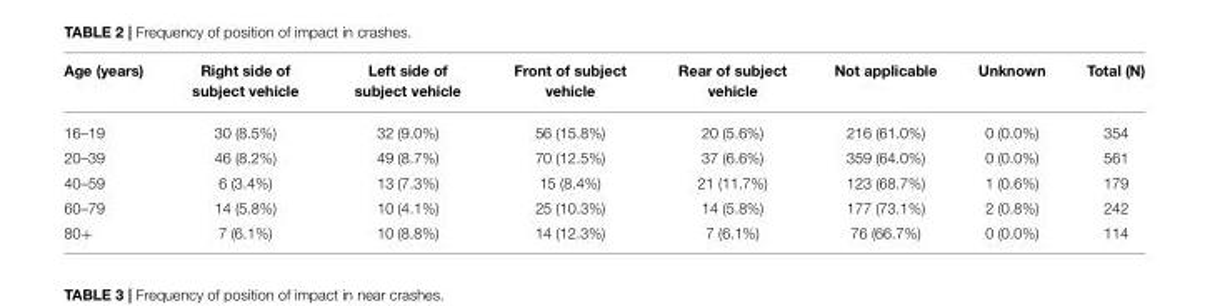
<table><thead><tr><td>Age (years)</td><td>Right side of subject vehicle</td><td>Left side of subject vehicle</td><td>Front of subject vehicle</td><td>Rear of subject vehicle</td><td>Not applicable</td><td>Unknown</td><td>Total (N)</td></tr></thead><tbody><tr><td>16–19</td><td>30 (8.5%)</td><td>32 (9.0%)</td><td>56 (15.8%)</td><td>20 (5.6%)</td><td>216 (61.0%)</td><td>0 (0.0%)</td><td>354</td></tr><tr><td>20–39</td><td>46 (8.2%)</td><td>49 (8.7%)</td><td>70 (12.5%)</td><td>37 (6.6%)</td><td>359 (64.0%)</td><td>0 (0.0%)</td><td>561</td></tr><tr><td>40–59</td><td>6 (3.4%)</td><td>13 (7.3%)</td><td>15 (8.4%)</td><td>21 (11.7%)</td><td>123 (68.7%)</td><td>1 (0.6%)</td><td>179</td></tr><tr><td>60–79</td><td>14 (5.8%)</td><td>10 (4.1%)</td><td>25 (10.3%)</td><td>14 (5.8%)</td><td>177 (73.1%)</td><td>2 (0.8%)</td><td>242</td></tr><tr><td>80+</td><td>7 (6.1%)</td><td>10 (8.8%)</td><td>14 (12.3%)</td><td>7 (6.1%)</td><td>76 (66.7%)</td><td>0 (0.0%)</td><td>114</td></tr></tbody></table>